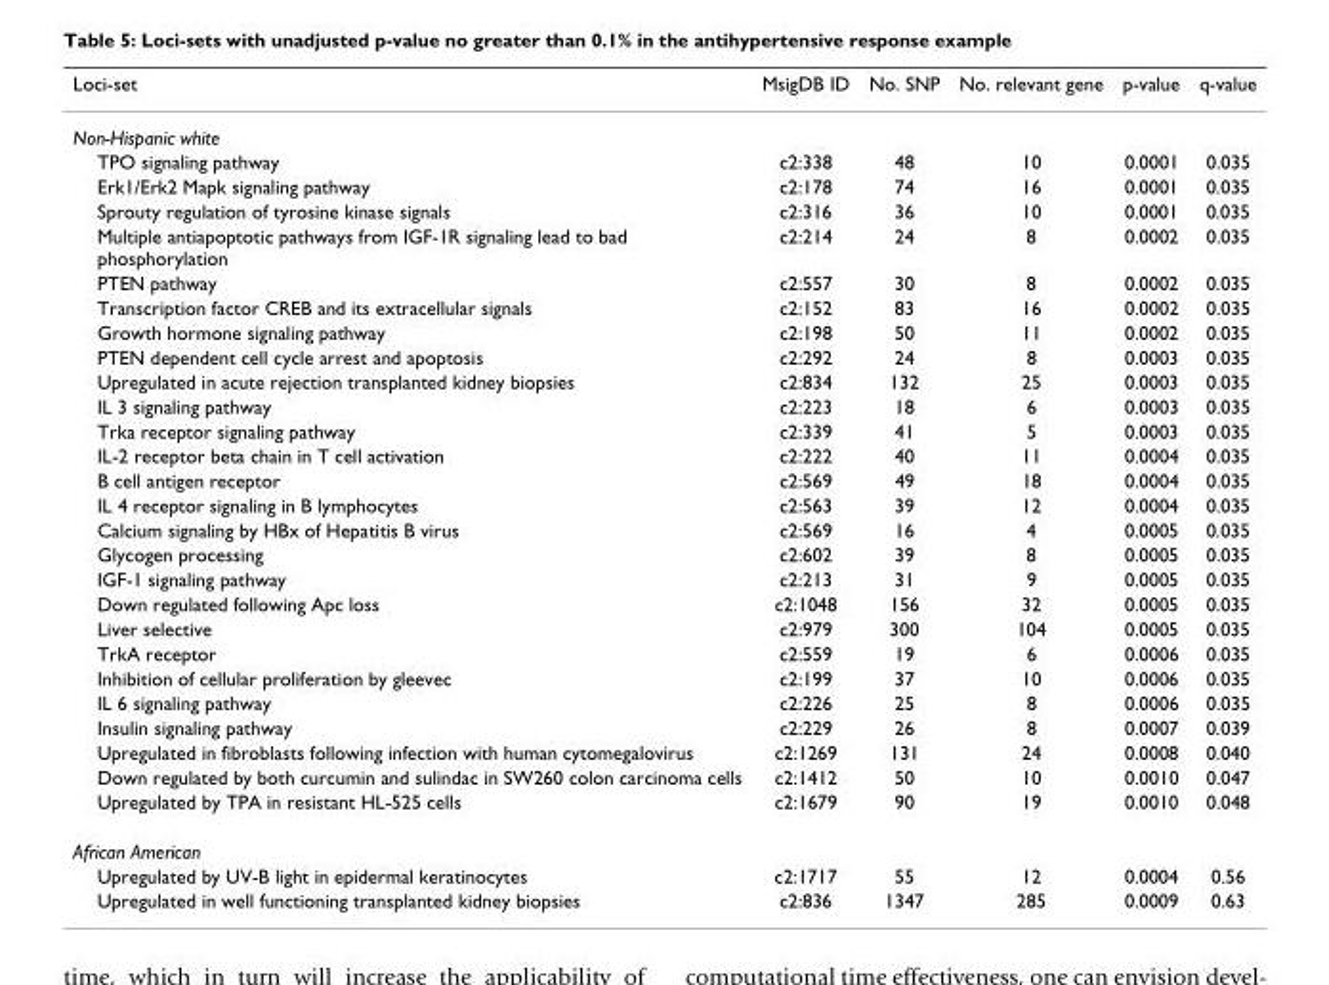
<table><thead><tr><td>Loci-set</td><td>MsigDB ID</td><td>No. SNP</td><td>No. relevant gene</td><td>p-value</td><td>q-value</td></tr></thead><tbody><tr><td colspan="6">Non-Hispanic white</td></tr><tr><td>TPO signaling pathway</td><td>c2:338</td><td>48</td><td>10</td><td>0.0001</td><td>0.035</td></tr><tr><td>Erk1/Erk2 Mapk signaling pathway</td><td>c2:178</td><td>74</td><td>16</td><td>0.0001</td><td>0.035</td></tr><tr><td>Sprouty regulation of tyrosine kinase signals</td><td>c2:316</td><td>36</td><td>10</td><td>0.0001</td><td>0.035</td></tr><tr><td>Multiple antiapoptotic pathways from IGF-1R signaling lead to bad phosphorylation</td><td>c2:214</td><td>24</td><td>8</td><td>0.0002</td><td>0.035</td></tr><tr><td>PTEN pathway</td><td>c2:557</td><td>30</td><td>8</td><td>0.0002</td><td>0.035</td></tr><tr><td>Transcription factor CREB and its extracellular signals</td><td>c2:152</td><td>83</td><td>16</td><td>0.0002</td><td>0.035</td></tr><tr><td>Growth hormone signaling pathway</td><td>c2:198</td><td>50</td><td>11</td><td>0.0002</td><td>0.035</td></tr><tr><td>PTEN dependent cell cycle arrest and apoptosis</td><td>c2:292</td><td>24</td><td>8</td><td>0.0003</td><td>0.035</td></tr><tr><td>Upregulated in acute rejection transplanted kidney biopsies</td><td>c2:834</td><td>132</td><td>25</td><td>0.0003</td><td>0.035</td></tr><tr><td>IL 3 signaling pathway</td><td>c2:223</td><td>18</td><td>6</td><td>0.0003</td><td>0.035</td></tr><tr><td>Trka receptor signaling pathway</td><td>c2:339</td><td>41</td><td>5</td><td>0.0003</td><td>0.035</td></tr><tr><td>IL-2 receptor beta chain in T cell activation</td><td>c2:222</td><td>40</td><td>11</td><td>0.0004</td><td>0.035</td></tr><tr><td>B cell antigen receptor</td><td>c2:569</td><td>49</td><td>18</td><td>0.0004</td><td>0.035</td></tr><tr><td>IL 4 receptor signaling in B lymphocytes</td><td>c2:563</td><td>39</td><td>12</td><td>0.0004</td><td>0.035</td></tr><tr><td>Calcium signaling by HBx of Hepatitis B virus</td><td>c2:569</td><td>16</td><td>4</td><td>0.0005</td><td>0.035</td></tr><tr><td>Glycogen processing</td><td>c2:602</td><td>39</td><td>8</td><td>0.0005</td><td>0.035</td></tr><tr><td>IGF-1 signaling pathway</td><td>c2:213</td><td>31</td><td>9</td><td>0.0005</td><td>0.035</td></tr><tr><td>Down regulated following Apc loss</td><td>c2:1048</td><td>156</td><td>32</td><td>0.0005</td><td>0.035</td></tr><tr><td>Liver selective</td><td>c2:979</td><td>300</td><td>104</td><td>0.0005</td><td>0.035</td></tr><tr><td>TrkA receptor</td><td>c2:559</td><td>19</td><td>6</td><td>0.0006</td><td>0.035</td></tr><tr><td>Inhibition of cellular proliferation by gleevec</td><td>c2:199</td><td>37</td><td>10</td><td>0.0006</td><td>0.035</td></tr><tr><td>IL 6 signaling pathway</td><td>c2:226</td><td>25</td><td>8</td><td>0.0006</td><td>0.035</td></tr><tr><td>Insulin signaling pathway</td><td>c2:229</td><td>26</td><td>8</td><td>0.0007</td><td>0.039</td></tr><tr><td>Upregulated in fibroblasts following infection with human cytomegalovirus</td><td>c2:1269</td><td>131</td><td>24</td><td>0.0008</td><td>0.040</td></tr><tr><td>Down regulated by both curcumin and sulindac in SW260 colon carcinoma cells</td><td>c2:1412</td><td>50</td><td>10</td><td>0.0010</td><td>0.047</td></tr><tr><td>Upregulated by TPA in resistant HL-525 cells</td><td>c2:1679</td><td>90</td><td>19</td><td>0.0010</td><td>0.048</td></tr><tr><td colspan="6">African American</td></tr><tr><td>Upregulated by UV-B light in epidermal keratinocytes</td><td>c2:1717</td><td>55</td><td>12</td><td>0.0004</td><td>0.56</td></tr><tr><td>Upregulated in well functioning transplanted kidney biopsies</td><td>c2:836</td><td>1347</td><td>285</td><td>0.0009</td><td>0.63</td></tr></tbody></table>